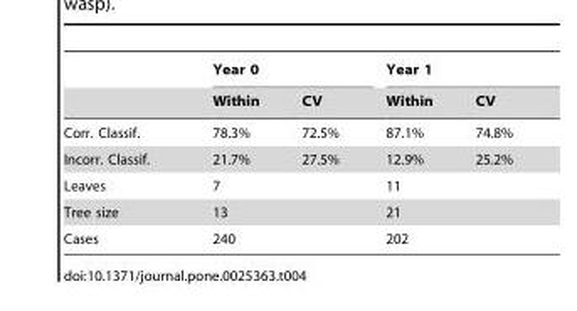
<table><thead><tr><td rowspan="2"></td><td colspan="2">Year 0</td><td colspan="2">Year 1</td></tr><tr><td>Within</td><td>CV</td><td>Within</td><td>CV</td></tr></thead><tbody><tr><td>Corr. Classif.</td><td>78.3%</td><td>72.5%</td><td>87.1%</td><td>74.8%</td></tr><tr><td>Incorr. Classif.</td><td>21.7%</td><td>27.5%</td><td>12.9%</td><td>25.2%</td></tr><tr><td>Leaves</td><td colspan="2">7</td><td colspan="2">11</td></tr><tr><td>Tree size</td><td colspan="2">13</td><td colspan="2">21</td></tr><tr><td>Cases</td><td colspan="2">240</td><td colspan="2">202</td></tr></tbody></table>